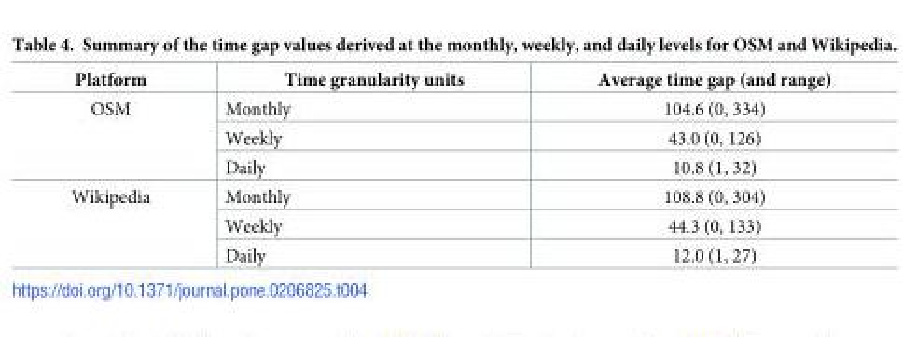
<table><thead><tr><td>Platform</td><td>Time granularity units</td><td>Average time gap (and range)</td></tr></thead><tbody><tr><td rowspan="3">OSM</td><td>Monthly</td><td>104.6 (0, 334)</td></tr><tr><td>Weekly</td><td>43.0 (0, 126)</td></tr><tr><td>Daily</td><td>10.8 (1, 32)</td></tr><tr><td rowspan="3">Wikipedia</td><td>Monthly</td><td>108.8 (0, 304)</td></tr><tr><td>Weekly</td><td>44.3 (0, 133)</td></tr><tr><td>Daily</td><td>12.0 (1, 27)</td></tr></tbody></table>